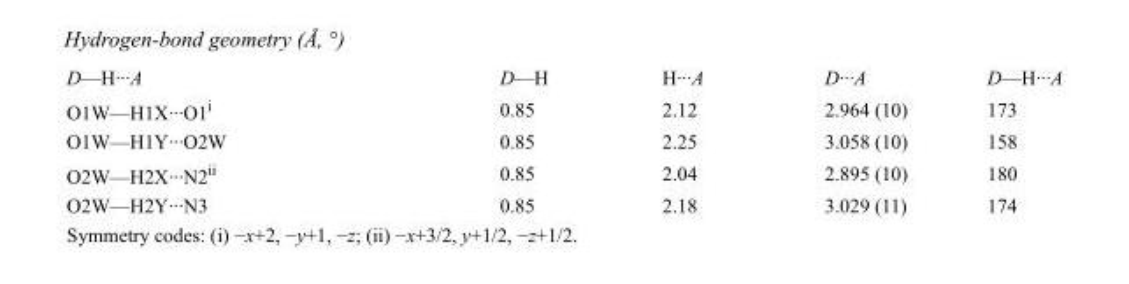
<table><tbody><tr><td>D—H···A</td><td>D—H</td><td>H···A</td><td>D···A</td><td>D—H···A</td></tr><tr><td>O1W—H1X···O1<sup>i</sup></td><td>0.85</td><td>2.12</td><td>2.964 (10)</td><td>173</td></tr><tr><td>O1W—H1Y···O2W</td><td>0.85</td><td>2.25</td><td>3.058 (10)</td><td>158</td></tr><tr><td>O2W—H2X···N2<sup>ii</sup></td><td>0.85</td><td>2.04</td><td>2.895 (10)</td><td>180</td></tr><tr><td>O2W—H2Y···N3</td><td>0.85</td><td>2.18</td><td>3.029 (11)</td><td>174</td></tr></tbody></table>